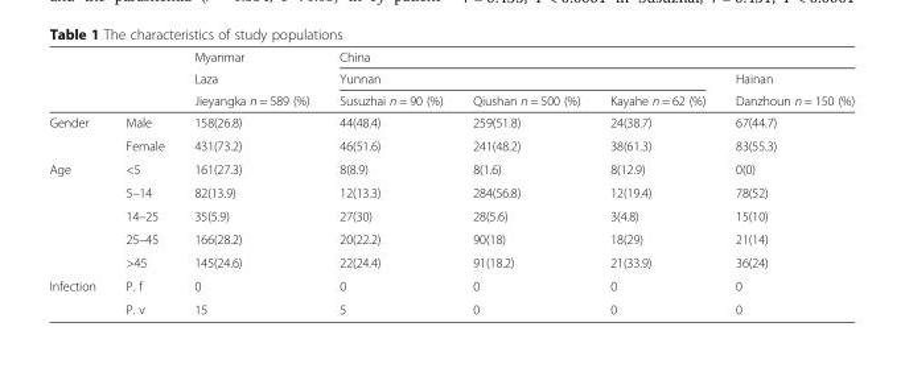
<table><thead><tr><td rowspan="3"></td><td rowspan="3"></td><td rowspan="3">Myanmar Laza Jieyangka n = 589 (%)</td><td colspan="4">China</td></tr><tr><td colspan="3">Yunnan</td><td rowspan="2">Hainan Danzhoun n = 150 (%)</td></tr><tr><td>Susuzhai n = 90 (%)</td><td>Qiushan n = 500 (%)</td><td>Kayahe n = 62 (%)</td></tr></thead><tbody><tr><td rowspan="2">Gender</td><td>Male</td><td>158(26.8)</td><td>44(48.4)</td><td>259(51.8)</td><td>24(38.7)</td><td>67(44.7)</td></tr><tr><td>Female</td><td>431(73.2)</td><td>46(51.6)</td><td>241(48.2)</td><td>38(61.3)</td><td>83(55.3)</td></tr><tr><td rowspan="5">Age</td><td>&lt;5</td><td>161(27.3)</td><td>8(8.9)</td><td>8(1.6)</td><td>8(12.9)</td><td>0(0)</td></tr><tr><td>5–14</td><td>82(13.9)</td><td>12(13.3)</td><td>284(56.8)</td><td>12(19.4)</td><td>78(52)</td></tr><tr><td>14–25</td><td>35(5.9)</td><td>27(30)</td><td>28(5.6)</td><td>3(4.8)</td><td>15(10)</td></tr><tr><td>25–45</td><td>166(28.2)</td><td>20(22.2)</td><td>90(18)</td><td>18(29)</td><td>21(14)</td></tr><tr><td>&gt;45</td><td>145(24.6)</td><td>22(24.4)</td><td>91(18.2)</td><td>21(33.9)</td><td>36(24)</td></tr><tr><td rowspan="2">Infection</td><td>P. f</td><td>0</td><td>0</td><td>0</td><td>0</td><td>0</td></tr><tr><td>P. v</td><td>15</td><td>5</td><td>0</td><td>0</td><td>0</td></tr></tbody></table>